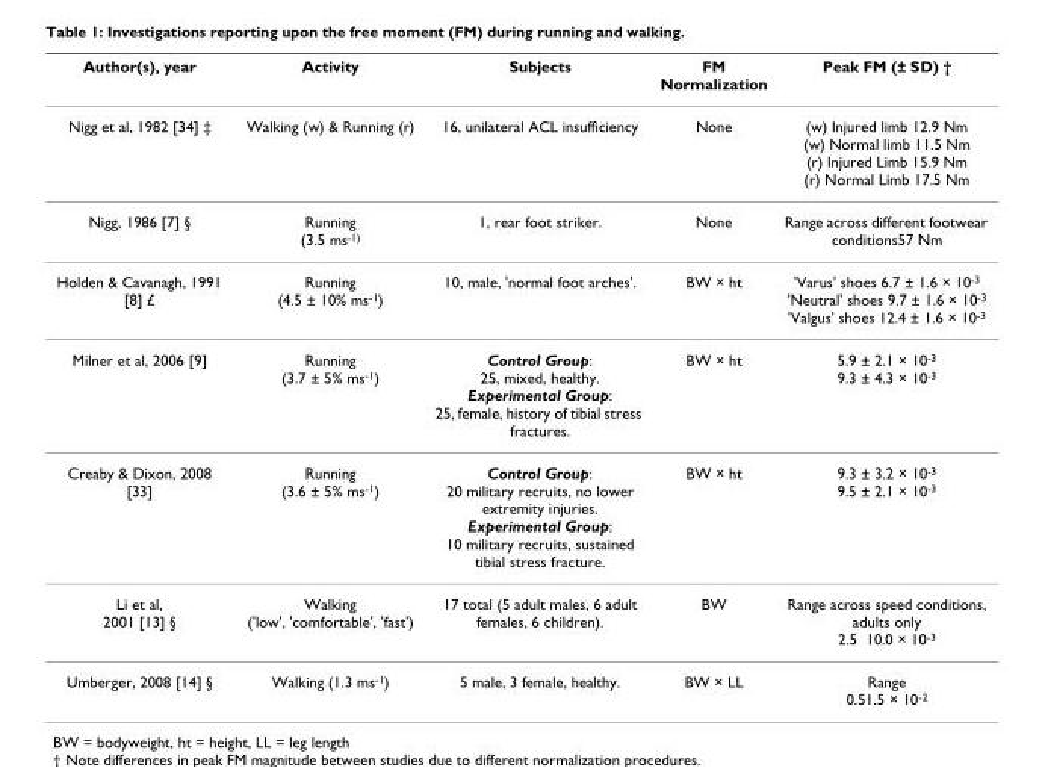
<table><thead><tr><td>Author(s), year</td><td>Activity</td><td>Subjects</td><td>FM Normalization</td><td>Peak FM (± SD) †</td></tr></thead><tbody><tr><td>Nigg et al, 1982 [34] ‡</td><td>Walking (w) &amp; Running (r)</td><td>16, unilateral ACL insufficiency</td><td>None</td><td>(w) Injured limb 12.9 Nm (w) Normal limb 11.5 Nm (r) Injured Limb 15.9 Nm (r) Normal Limb 17.5 Nm</td></tr><tr><td>Nigg, 1986 [7] §</td><td>Running (3.5 ms<sup>-1)</sup></td><td>1, rear foot striker.</td><td>None</td><td>Range across different footwear conditions57 Nm</td></tr><tr><td>Holden &amp; Cavanagh, 1991 [8] £</td><td>Running (4.5 ± 10% ms<sup>-1</sup>)</td><td>10, male, &#x27;normal foot arches&#x27;.</td><td>BW × ht</td><td>&#x27;Varus&#x27; shoes 6.7 ± 1.6 × 10<sup>-3</sup> &#x27;Neutral&#x27; shoes 9.7 ± 1.6 × 10<sup>-3</sup> &#x27;Valgus&#x27; shoes 12.4 ± 1.6 × 10<sup>-3</sup></td></tr><tr><td>Milner et al, 2006 [9]</td><td>Running (3.7 ± 5% ms<sup>-1</sup>)</td><td>Control Group: 25, mixed, healthy. Experimental Group: 25, female, history of tibial stress fractures.</td><td>BW × ht</td><td>5.9 ± 2.1 × 10<sup>-3</sup> 9.3 ± 4.3 × 10<sup>-3</sup></td></tr><tr><td>Creaby &amp; Dixon, 2008 [33]</td><td>Running (3.6 ± 5% ms<sup>-1</sup>)</td><td>Control Group: 20 military recruits, no lower extremity injuries. Experimental Group: 10 military recruits, sustained tibial stress fracture.</td><td>BW × ht</td><td>9.3 ± 3.2 × 10<sup>-3</sup> 9.5 ± 2.1 × 10<sup>-3</sup></td></tr><tr><td>Li et al, 2001 [13] §</td><td>Walking (&#x27;low&#x27;, &#x27;comfortable&#x27;, &#x27;fast&#x27;)</td><td>17 total (5 adult males, 6 adult females, 6 children).</td><td>BW</td><td>Range across speed conditions, adults only 2.5 10.0 × 10-3</td></tr><tr><td>Umberger, 2008 [14] §</td><td>Walking (1.3 ms<sup>-1</sup>)</td><td>5 male, 3 female, healthy.</td><td>BW × LL</td><td>Range 0.51.5 × 10-2</td></tr></tbody></table>